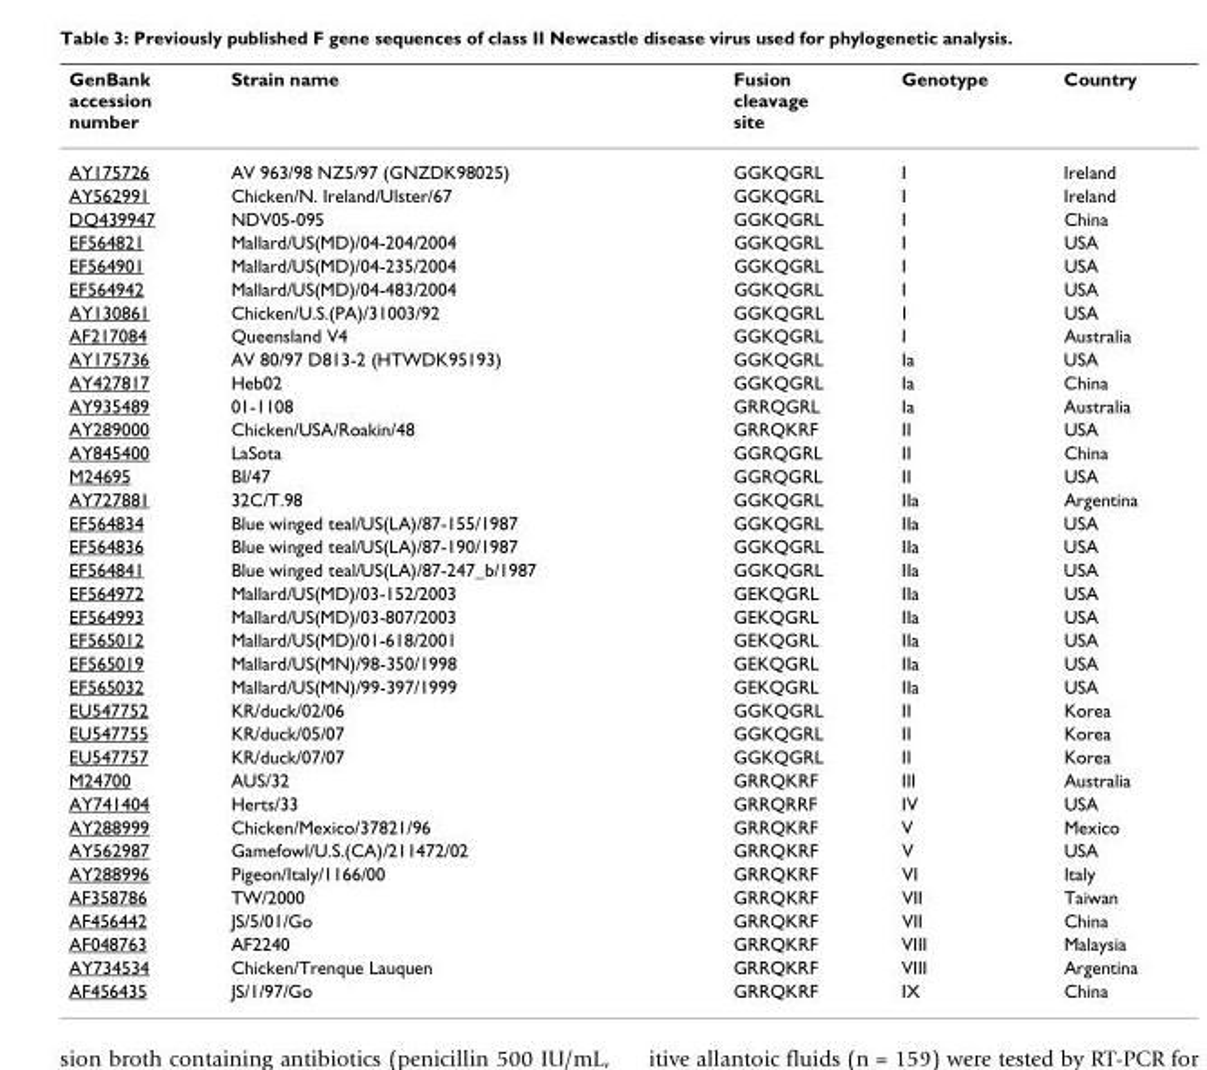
<table><thead><tr><td>GenBank accession number</td><td>Strain name</td><td>Fusion cleavage site</td><td>Genotype</td><td>Country</td></tr></thead><tbody><tr><td>AY175726</td><td>AV 963/98 NZ5/97 (GNZDK98025)</td><td>GGKQGRL</td><td>I</td><td>Ireland</td></tr><tr><td>AY562991</td><td>Chicken/N. Ireland/Ulster/67</td><td>GGKQGRL</td><td>I</td><td>Ireland</td></tr><tr><td>DQ439947</td><td>NDV05-095</td><td>GGKQGRL</td><td>I</td><td>China</td></tr><tr><td>EF564821</td><td>Mallard/US(MD)/04-204/2004</td><td>GGKQGRL</td><td>I</td><td>USA</td></tr><tr><td>EF564901</td><td>Mallard/US(MD)/04-235/2004</td><td>GGKQGRL</td><td>I</td><td>USA</td></tr><tr><td>EF564942</td><td>Mallard/US(MD)/04-483/2004</td><td>GGKQGRL</td><td>I</td><td>USA</td></tr><tr><td>AY130861</td><td>Chicken/U.S.(PA)/31003/92</td><td>GGKQGRL</td><td>I</td><td>USA</td></tr><tr><td>AF217084</td><td>Queensland V4</td><td>GGKQGRL</td><td>I</td><td>Australia</td></tr><tr><td>AY175736</td><td>AV 80/97 D813-2 (HTWDK95193)</td><td>GGKQGRL</td><td>Ia</td><td>USA</td></tr><tr><td>AY427817</td><td>Heb02</td><td>GGKQGRL</td><td>Ia</td><td>China</td></tr><tr><td>AY935489</td><td>01-1108</td><td>GRRQGRL</td><td>Ia</td><td>Australia</td></tr><tr><td>AY289000</td><td>Chicken/USA/Roakin/48</td><td>GRRQKRF</td><td>II</td><td>USA</td></tr><tr><td>AY845400</td><td>LaSota</td><td>GGRQGRL</td><td>II</td><td>China</td></tr><tr><td>M24695</td><td>BI/47</td><td>GGRQGRL</td><td>II</td><td>USA</td></tr><tr><td>AY727881</td><td>32C/T.98</td><td>GGKQGRL</td><td>IIa</td><td>Argentina</td></tr><tr><td>EF564834</td><td>Blue winged teal/US(LA)/87-155/1987</td><td>GGKQGRL</td><td>IIa</td><td>USA</td></tr><tr><td>EF564836</td><td>Blue winged teal/US(LA)/87-190/1987</td><td>GGKQGRL</td><td>IIa</td><td>USA</td></tr><tr><td>EF564841</td><td>Blue winged teal/US(LA)/87-247_b/1987</td><td>GGKQGRL</td><td>IIa</td><td>USA</td></tr><tr><td>EF564972</td><td>Mallard/US(MD)/03-152/2003</td><td>GEKQGRL</td><td>IIa</td><td>USA</td></tr><tr><td>EF564993</td><td>Mallard/US(MD)/03-807/2003</td><td>GEKQGRL</td><td>IIa</td><td>USA</td></tr><tr><td>EF565012</td><td>Mallard/US(MD)/01-618/2001</td><td>GEKQGRL</td><td>IIa</td><td>USA</td></tr><tr><td>EF565019</td><td>Mallard/US(MN)/98-350/1998</td><td>GEKQGRL</td><td>IIa</td><td>USA</td></tr><tr><td>EF565032</td><td>Mallard/US(MN)/99-397/1999</td><td>GEKQGRL</td><td>IIa</td><td>USA</td></tr><tr><td>EU547752</td><td>KR/duck/02/06</td><td>GGKQGRL</td><td>II</td><td>Korea</td></tr><tr><td>EU547755</td><td>KR/duck/05/07</td><td>GGKQGRL</td><td>II</td><td>Korea</td></tr><tr><td>EU547757</td><td>KR/duck/07/07</td><td>GGKQGRL</td><td>II</td><td>Korea</td></tr><tr><td>M24700</td><td>AUS/32</td><td>GRRQKRF</td><td>III</td><td>Australia</td></tr><tr><td>AY741404</td><td>Herts/33</td><td>GRRQRRF</td><td>IV</td><td>USA</td></tr><tr><td>AY288999</td><td>Chicken/Mexico/37821/96</td><td>GRRQKRF</td><td>V</td><td>Mexico</td></tr><tr><td>AY562987</td><td>Gamefowl/U.S.(CA)/211472/02</td><td>GRRQKRF</td><td>V</td><td>USA</td></tr><tr><td>AY288996</td><td>Pigeon/Italy/1166/00</td><td>GRRQKRF</td><td>VI</td><td>Italy</td></tr><tr><td>AF358786</td><td>TW/2000</td><td>GRRQKRF</td><td>VII</td><td>Taiwan</td></tr><tr><td>AF456442</td><td>JS/5/01/Go</td><td>GRRQKRF</td><td>VII</td><td>China</td></tr><tr><td>AF048763</td><td>AF2240</td><td>GRRQKRF</td><td>VIII</td><td>Malaysia</td></tr><tr><td>AY734534</td><td>Chicken/Trenque Lauquen</td><td>GRRQKRF</td><td>VIII</td><td>Argentina</td></tr><tr><td>AF456435</td><td>JS/1/97/Go</td><td>GRRQKRF</td><td>IX</td><td>China</td></tr></tbody></table>